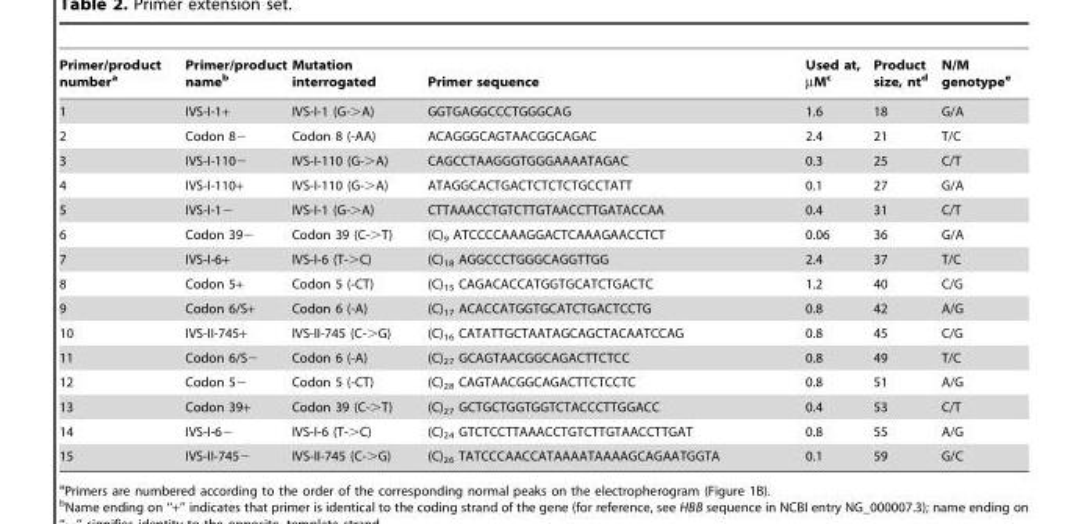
<table><thead><tr><td>Primer/product number<sup>a</sup></td><td>Primer/product name<sup>b</sup></td><td>Mutation interrogated</td><td>Primer sequence</td><td>Used at, µM<sup>c</sup></td><td>Product size, nt<sup>d</sup></td><td>N/M genotype<sup>e</sup></td></tr></thead><tbody><tr><td>1</td><td>IVS-I-1+</td><td>IVS-I-1 (G-&gt;A)</td><td>GGTGAGGCCCTGGGCAG</td><td>1.6</td><td>18</td><td>G/A</td></tr><tr><td>2</td><td>Codon 8−</td><td>Codon 8 (-AA)</td><td>ACAGGGCAGTAACGGCAGAC</td><td>2.4</td><td>21</td><td>T/C</td></tr><tr><td>3</td><td>IVS-I-110−</td><td>IVS-I-110 (G-&gt;A)</td><td>CAGCCTAAGGGTGGGAAAATAGAC</td><td>0.3</td><td>25</td><td>C/T</td></tr><tr><td>4</td><td>IVS-I-110+</td><td>IVS-I-110 (G-&gt;A)</td><td>ATAGGCACTGACTCTCTCTGCCTATT</td><td>0.1</td><td>27</td><td>G/A</td></tr><tr><td>5</td><td>IVS-I-1−</td><td>IVS-I-1 (G-&gt;A)</td><td>CTTAAACCTGTCTTGTAACCTTGATACCAA</td><td>0.4</td><td>31</td><td>C/T</td></tr><tr><td>6</td><td>Codon 39−</td><td>Codon 39 (C-&gt;T)</td><td>(C)<sub>9</sub> ATCCCCAAAGGACTCAAAGAACCTCT</td><td>0.06</td><td>36</td><td>G/A</td></tr><tr><td>7</td><td>IVS-I-6+</td><td>IVS-I-6 (T-&gt;C)</td><td>(C)<sub>18</sub> AGGCCCTGGGCAGGTTGG</td><td>2.4</td><td>37</td><td>T/C</td></tr><tr><td>8</td><td>Codon 5+</td><td>Codon 5 (-CT)</td><td>(C)<sub>15</sub> CAGACACCATGGTGCATCTGACTC</td><td>1.2</td><td>40</td><td>C/G</td></tr><tr><td>9</td><td>Codon 6/S+</td><td>Codon 6 (-A)</td><td>(C)<sub>17</sub> ACACCATGGTGCATCTGACTCCTG</td><td>0.8</td><td>42</td><td>A/G</td></tr><tr><td>10</td><td>IVS-II-745+</td><td>IVS-II-745 (C-&gt;G)</td><td>(C)<sub>16</sub> CATATTGCTAATAGCAGCTACAATCCAG</td><td>0.8</td><td>45</td><td>C/G</td></tr><tr><td>11</td><td>Codon 6/S−</td><td>Codon 6 (-A)</td><td>(C)<sub>27</sub> GCAGTAACGGCAGACTTCTCC</td><td>0.8</td><td>49</td><td>T/C</td></tr><tr><td>12</td><td>Codon 5−</td><td>Codon 5 (-CT)</td><td>(C)<sub>28</sub> CAGTAACGGCAGACTTCTCCTC</td><td>0.8</td><td>51</td><td>A/G</td></tr><tr><td>13</td><td>Codon 39+</td><td>Codon 39 (C-&gt;T)</td><td>(C)<sub>27</sub> GCTGCTGGTGGTCTACCCTTGGACC</td><td>0.4</td><td>53</td><td>C/T</td></tr><tr><td>14</td><td>IVS-I-6−</td><td>IVS-I-6 (T-&gt;C)</td><td>(C)<sub>24</sub> GTCTCCTTAAACCTGTCTTGTAACCTTGAT</td><td>0.8</td><td>55</td><td>A/G</td></tr><tr><td>15</td><td>IVS-II-745−</td><td>IVS-II-745 (C-&gt;G)</td><td>(C)<sub>26</sub> TATCCCAACCATAAAATAAAAGCAGAATGGTA</td><td>0.1</td><td>59</td><td>G/C</td></tr></tbody></table>